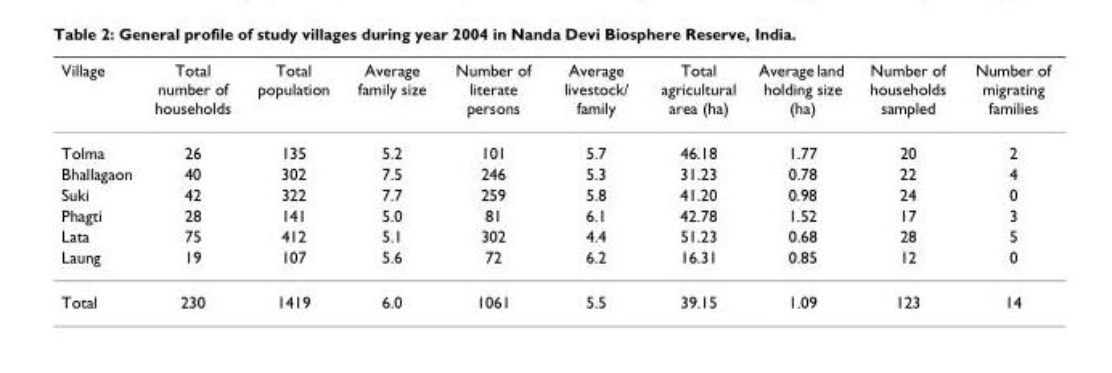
<table><thead><tr><td>Village</td><td>Total number of households</td><td>Total population</td><td>Average family size</td><td>Number of literate persons</td><td>Average livestock/ family</td><td>Total agricultural area (ha)</td><td>Average land holding size (ha)</td><td>Number of households sampled</td><td>Number of migrating families</td></tr></thead><tbody><tr><td>Tolma</td><td>26</td><td>135</td><td>5.2</td><td>101</td><td>5.7</td><td>46.18</td><td>1.77</td><td>20</td><td>2</td></tr><tr><td>Bhallagaon</td><td>40</td><td>302</td><td>7.5</td><td>246</td><td>5.3</td><td>31.23</td><td>0.78</td><td>22</td><td>4</td></tr><tr><td>Suki</td><td>42</td><td>322</td><td>7.7</td><td>259</td><td>5.8</td><td>41.20</td><td>0.98</td><td>24</td><td>0</td></tr><tr><td>Phagti</td><td>28</td><td>141</td><td>5.0</td><td>81</td><td>6.1</td><td>42.78</td><td>1.52</td><td>17</td><td>3</td></tr><tr><td>Lata</td><td>75</td><td>412</td><td>5.1</td><td>302</td><td>4.4</td><td>51.23</td><td>0.68</td><td>28</td><td>5</td></tr><tr><td>Laung</td><td>19</td><td>107</td><td>5.6</td><td>72</td><td>6.2</td><td>16.31</td><td>0.85</td><td>12</td><td>0</td></tr><tr><td>Total</td><td>230</td><td>1419</td><td>6.0</td><td>1061</td><td>5.5</td><td>39.15</td><td>1.09</td><td>123</td><td>14</td></tr></tbody></table>